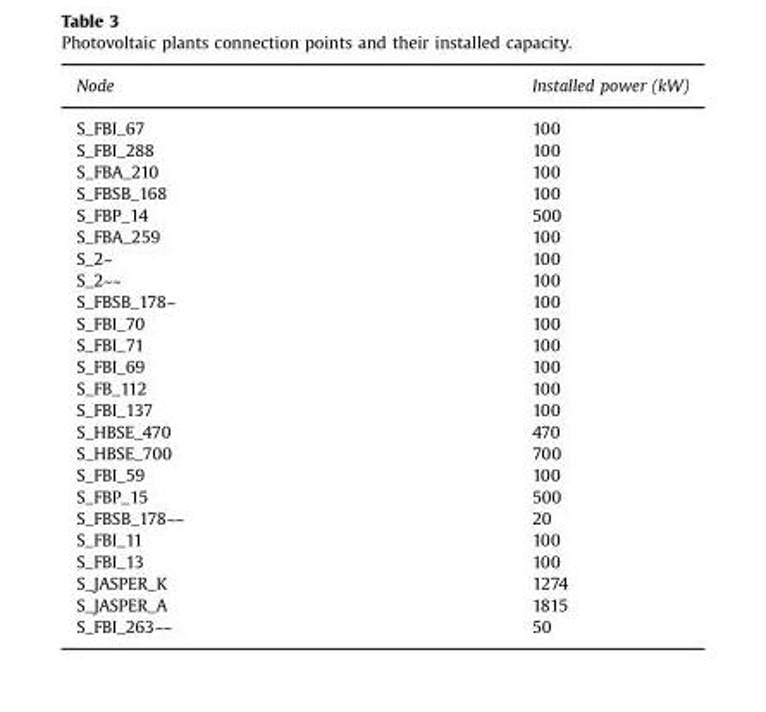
<table><thead><tr><td>Node</td><td>Installed power (kW)</td></tr></thead><tbody><tr><td>S_FBI_67</td><td>100</td></tr><tr><td>S_FBI_288</td><td>100</td></tr><tr><td>S_FBA_210</td><td>100</td></tr><tr><td>S_FBSB_168</td><td>100</td></tr><tr><td>S_FBP_14</td><td>500</td></tr><tr><td>S_FBA_259</td><td>100</td></tr><tr><td>S_2~</td><td>100</td></tr><tr><td>S_2~~</td><td>100</td></tr><tr><td>S_FBSB_178~</td><td>100</td></tr><tr><td>S_FBI_70</td><td>100</td></tr><tr><td>S_FBI_71</td><td>100</td></tr><tr><td>S_FBI_69</td><td>100</td></tr><tr><td>S_FB_112</td><td>100</td></tr><tr><td>S_FBI_137</td><td>100</td></tr><tr><td>S_HBSE_470</td><td>470</td></tr><tr><td>S_HBSE_700</td><td>700</td></tr><tr><td>S_FBI_59</td><td>100</td></tr><tr><td>S_FBP_15</td><td>500</td></tr><tr><td>S_FBSB_178~~</td><td>20</td></tr><tr><td>S_FBI_11</td><td>100</td></tr><tr><td>S_FBI_13</td><td>100</td></tr><tr><td>S_JASPER_K</td><td>1274</td></tr><tr><td>S_JASPER_A</td><td>1815</td></tr><tr><td>S_FBI_263~~</td><td>50</td></tr></tbody></table>